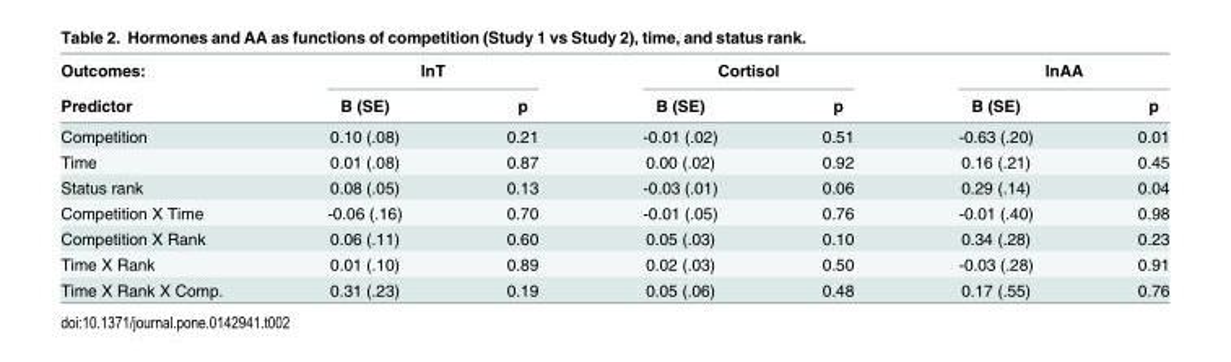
<table><thead><tr><td rowspan="2">Outcomes: Predictor</td><td colspan="2">lnT</td><td colspan="2">Cortisol</td><td colspan="2">lnAA</td></tr><tr><td>B (SE)</td><td>p</td><td>B (SE)</td><td>p</td><td>B (SE)</td><td>p</td></tr></thead><tbody><tr><td>Competition</td><td>0.10 (.08)</td><td>0.21</td><td>-0.01 (.02)</td><td>0.51</td><td>-0.63 (.20)</td><td>0.01</td></tr><tr><td>Time</td><td>0.01 (.08)</td><td>0.87</td><td>0.00 (.02)</td><td>0.92</td><td>0.16 (.21)</td><td>0.45</td></tr><tr><td>Status rank</td><td>0.08 (.05)</td><td>0.13</td><td>-0.03 (.01)</td><td>0.06</td><td>0.29 (.14)</td><td>0.04</td></tr><tr><td>Competition X Time</td><td>-0.06 (.16)</td><td>0.70</td><td>-0.01 (.05)</td><td>0.76</td><td>-0.01 (.40)</td><td>0.98</td></tr><tr><td>Competition X Rank</td><td>0.06 (.11)</td><td>0.60</td><td>0.05 (.03)</td><td>0.10</td><td>0.34 (.28)</td><td>0.23</td></tr><tr><td>Time X Rank</td><td>0.01 (.10)</td><td>0.89</td><td>0.02 (.03)</td><td>0.50</td><td>-0.03 (.28)</td><td>0.91</td></tr><tr><td>Time X Rank X Comp.</td><td>0.31 (.23)</td><td>0.19</td><td>0.05 (.06)</td><td>0.48</td><td>0.17 (.55)</td><td>0.76</td></tr></tbody></table>